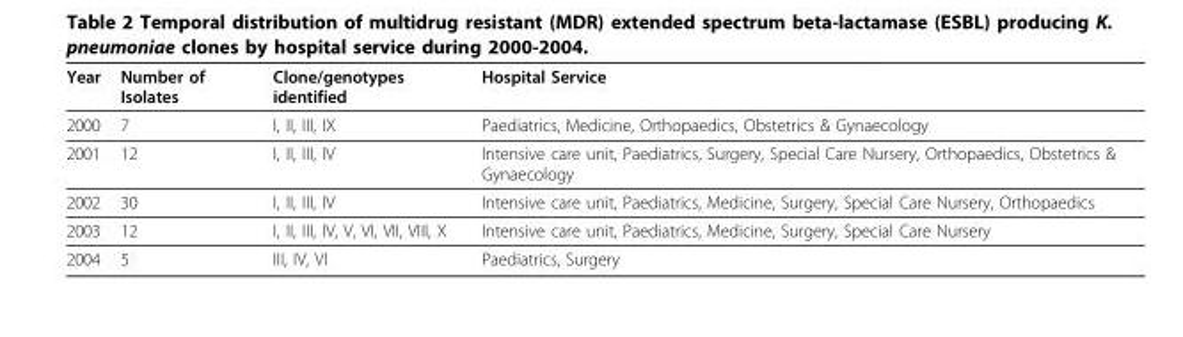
<table><thead><tr><td>Year</td><td>Number of Isolates</td><td>Clone/genotypes identified</td><td>Hospital Service</td></tr></thead><tbody><tr><td>2000</td><td>7</td><td>I, II, III, IX</td><td>Paediatrics, Medicine, Orthopaedics, Obstetrics &amp; Gynaecology</td></tr><tr><td>2001</td><td>12</td><td>I, II, III, IV</td><td>Intensive care unit, Paediatrics, Surgery, Special Care Nursery, Orthopaedics, Obstetrics &amp; Gynaecology</td></tr><tr><td>2002</td><td>30</td><td>I, II, III, IV</td><td>Intensive care unit, Paediatrics, Medicine, Surgery, Special Care Nursery, Orthopaedics</td></tr><tr><td>2003</td><td>12</td><td>I, II, III, IV, V, VI, VII, VIII, X</td><td>Intensive care unit, Paediatrics, Medicine, Surgery, Special Care Nursery</td></tr><tr><td>2004</td><td>5</td><td>III, IV, VI</td><td>Paediatrics, Surgery</td></tr></tbody></table>